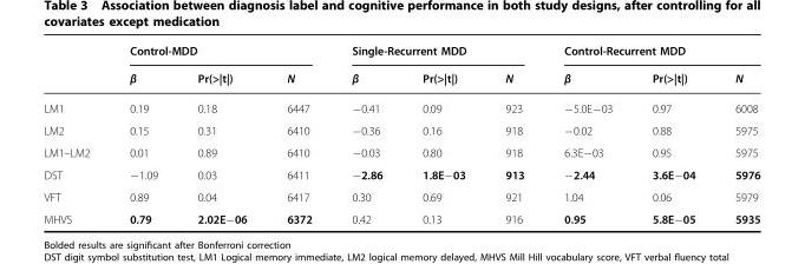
<table><thead><tr><td rowspan="2"></td><td colspan="3">Control-MDD</td><td colspan="3">Single-Recurrent MDD</td><td colspan="3">Control-Recurrent MDD</td></tr><tr><td>β</td><td>Pr(&gt;|t|)</td><td>N</td><td>β</td><td>Pr(&gt;|t|)</td><td>N</td><td>β</td><td>Pr(&gt;|t|)</td><td>N</td></tr></thead><tbody><tr><td>LM1</td><td>0.19</td><td>0.18</td><td>6447</td><td>−0.41</td><td>0.09</td><td>923</td><td>−5.0E−03</td><td>0.97</td><td>6008</td></tr><tr><td>LM2</td><td>0.15</td><td>0.31</td><td>6410</td><td>−0.36</td><td>0.16</td><td>918</td><td>−0.02</td><td>0.88</td><td>5975</td></tr><tr><td>LM1–LM2</td><td>0.01</td><td>0.89</td><td>6410</td><td>−0.03</td><td>0.80</td><td>918</td><td>6.3E−03</td><td>0.95</td><td>5975</td></tr><tr><td>DST</td><td>−1.09</td><td>0.03</td><td>6411</td><td>−2.86</td><td>1.8E−03</td><td>913</td><td>−2.44</td><td>3.6E−04</td><td>5976</td></tr><tr><td>VFT</td><td>0.89</td><td>0.04</td><td>6417</td><td>0.30</td><td>0.69</td><td>921</td><td>1.04</td><td>0.06</td><td>5979</td></tr><tr><td>MHVS</td><td>0.79</td><td>2.02E−06</td><td>6372</td><td>0.42</td><td>0.13</td><td>916</td><td>0.95</td><td>5.8E−05</td><td>5935</td></tr></tbody></table>